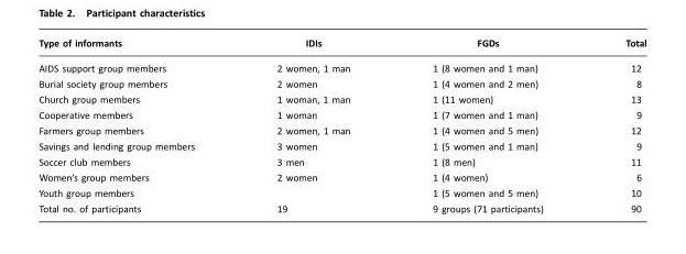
<table><thead><tr><td>Type of informants</td><td>IDIs</td><td>FGDs</td><td>Total</td></tr></thead><tbody><tr><td>AIDS support group members</td><td>2 women, 1 man</td><td>1 (8 women and 1 man)</td><td>12</td></tr><tr><td>Burial society group members</td><td>2 women</td><td>1 (4 women and 2 men)</td><td>8</td></tr><tr><td>Church group members</td><td>1 woman, 1 man</td><td>1 (11 women)</td><td>13</td></tr><tr><td>Cooperative members</td><td>1 woman</td><td>1 (7 women and 1 man)</td><td>9</td></tr><tr><td>Farmers group members</td><td>2 women, 1 man</td><td>1 (4 women and 5 men)</td><td>12</td></tr><tr><td>Savings and lending group members</td><td>3 women</td><td>1 (5 women and 1 man)</td><td>9</td></tr><tr><td>Soccer club members</td><td>3 men</td><td>1 (8 men)</td><td>11</td></tr><tr><td>Women’s group members</td><td>2 women</td><td>1 (4 women)</td><td>6</td></tr><tr><td>Youth group members</td><td></td><td>1 (5 women and 5 men)</td><td>10</td></tr><tr><td>Total no. of participants</td><td>19</td><td>9 groups (71 participants)</td><td>90</td></tr></tbody></table>